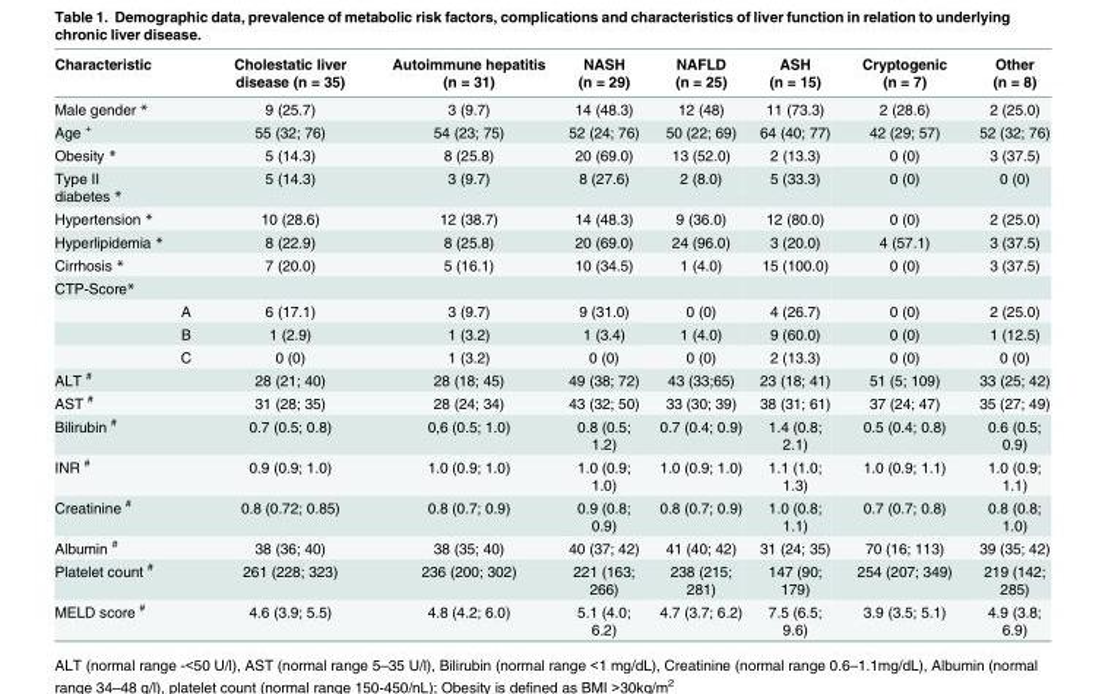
<table><thead><tr><td>Characteristic</td><td></td><td>Cholestatic liver disease (n = 35)</td><td>Autoimmune hepatitis (n = 31)</td><td>NASH (n = 29)</td><td>NAFLD (n = 25)</td><td>ASH (n = 15)</td><td>Cryptogenic (n = 7)</td><td>Other (n = 8)</td></tr></thead><tbody><tr><td>Male gender *</td><td></td><td>9 (25.7)</td><td>3 (9.7)</td><td>14 (48.3)</td><td>12 (48)</td><td>11 (73.3)</td><td>2 (28.6)</td><td>2 (25.0)</td></tr><tr><td>Age <sup>+</sup></td><td></td><td>55 (32; 76)</td><td>54 (23; 75)</td><td>52 (24; 76)</td><td>50 (22; 69)</td><td>64 (40; 77)</td><td>42 (29; 57)</td><td>52 (32; 76)</td></tr><tr><td>Obesity *</td><td></td><td>5 (14.3)</td><td>8 (25.8)</td><td>20 (69.0)</td><td>13 (52.0)</td><td>2 (13.3)</td><td>0 (0)</td><td>3 (37.5)</td></tr><tr><td>Type II diabetes *</td><td></td><td>5 (14.3)</td><td>3 (9.7)</td><td>8 (27.6)</td><td>2 (8.0)</td><td>5 (33.3)</td><td>0 (0)</td><td>0 (0)</td></tr><tr><td>Hypertension *</td><td></td><td>10 (28.6)</td><td>12 (38.7)</td><td>14 (48.3)</td><td>9 (36.0)</td><td>12 (80.0)</td><td>0 (0)</td><td>2 (25.0)</td></tr><tr><td>Hyperlipidemia *</td><td></td><td>8 (22.9)</td><td>8 (25.8)</td><td>20 (69.0)</td><td>24 (96.0)</td><td>3 (20.0)</td><td>4 (57.1)</td><td>3 (37.5)</td></tr><tr><td>Cirrhosis *</td><td></td><td>7 (20.0)</td><td>5 (16.1)</td><td>10 (34.5)</td><td>1 (4.0)</td><td>15 (100.0)</td><td>0 (0)</td><td>3 (37.5)</td></tr><tr><td colspan="9">CTP-Score*</td></tr><tr><td></td><td>A</td><td>6 (17.1)</td><td>3 (9.7)</td><td>9 (31.0)</td><td>0 (0)</td><td>4 (26.7)</td><td>0 (0)</td><td>2 (25.0)</td></tr><tr><td></td><td>B</td><td>1 (2.9)</td><td>1 (3.2)</td><td>1 (3.4)</td><td>1 (4.0)</td><td>9 (60.0)</td><td>0 (0)</td><td>1 (12.5)</td></tr><tr><td></td><td>C</td><td>0 (0)</td><td>1 (3.2)</td><td>0 (0)</td><td>0 (0)</td><td>2 (13.3)</td><td>0 (0)</td><td>0 (0)</td></tr><tr><td>ALT <sup>#</sup></td><td></td><td>28 (21; 40)</td><td>28 (18; 45)</td><td>49 (38; 72)</td><td>43 (33;65)</td><td>23 (18; 41)</td><td>51 (5; 109)</td><td>33 (25; 42)</td></tr><tr><td>AST <sup>#</sup></td><td></td><td>31 (28; 35)</td><td>28 (24; 34)</td><td>43 (32; 50)</td><td>33 (30; 39)</td><td>38 (31; 61)</td><td>37 (24; 47)</td><td>35 (27; 49)</td></tr><tr><td>Bilirubin <sup>#</sup></td><td></td><td>0.7 (0.5; 0.8)</td><td>0,6 (0.5; 1.0)</td><td>0.8 (0.5; 1.2)</td><td>0.7 (0.4; 0.9)</td><td>1.4 (0.8; 2.1)</td><td>0.5 (0.4; 0.8)</td><td>0.6 (0.5; 0.9)</td></tr><tr><td>INR <sup>#</sup></td><td></td><td>0.9 (0.9; 1.0)</td><td>1.0 (0.9; 1.0)</td><td>1.0 (0.9; 1.0)</td><td>1.0 (0.9; 1.0)</td><td>1.1 (1.0; 1.3)</td><td>1.0 (0.9; 1.1)</td><td>1.0 (0.9; 1.1)</td></tr><tr><td>Creatinine <sup>#</sup></td><td></td><td>0.8 (0.72; 0.85)</td><td>0.8 (0.7; 0.9)</td><td>0.9 (0.8; 0.9)</td><td>0.8 (0.7; 0.9)</td><td>1.0 (0.8; 1.1)</td><td>0.7 (0.7; 0.8)</td><td>0.8 (0.8; 1.0)</td></tr><tr><td>Albumin <sup>#</sup></td><td></td><td>38 (36; 40)</td><td>38 (35; 40)</td><td>40 (37; 42)</td><td>41 (40; 42)</td><td>31 (24; 35)</td><td>70 (16; 113)</td><td>39 (35; 42)</td></tr><tr><td>Platelet count <sup>#</sup></td><td></td><td>261 (228; 323)</td><td>236 (200; 302)</td><td>221 (163; 266)</td><td>238 (215; 281)</td><td>147 (90; 179)</td><td>254 (207; 349)</td><td>219 (142; 285)</td></tr><tr><td>MELD score <sup>#</sup></td><td></td><td>4.6 (3.9; 5.5)</td><td>4.8 (4.2; 6.0)</td><td>5.1 (4.0; 6.2)</td><td>4.7 (3.7; 6.2)</td><td>7.5 (6.5; 9.6)</td><td>3.9 (3.5; 5.1)</td><td>4.9 (3.8; 6.9)</td></tr></tbody></table>